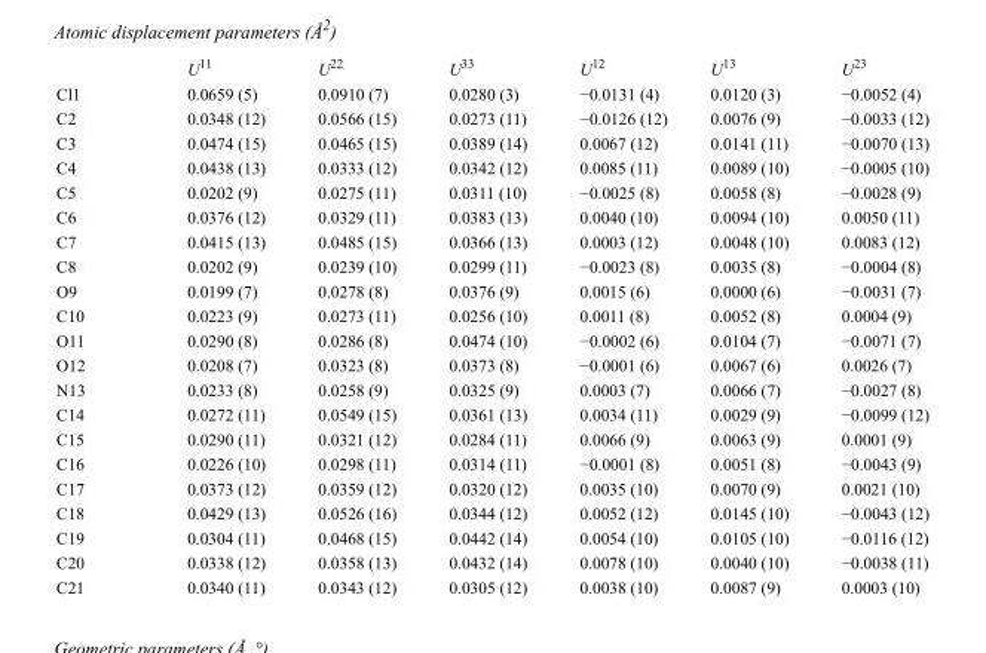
<table><thead><tr><td></td><td>U<sup>11</sup></td><td>U<sup>22</sup></td><td>U<sup>33</sup></td><td>U<sup>12</sup></td><td>U<sup>13</sup></td><td>U<sup>23</sup></td></tr></thead><tbody><tr><td>Cl1</td><td>0.0659 (5)</td><td>0.0910 (7)</td><td>0.0280 (3)</td><td>−0.0131 (4)</td><td>0.0120 (3)</td><td>−0.0052 (4)</td></tr><tr><td>C2</td><td>0.0348 (12)</td><td>0.0566 (15)</td><td>0.0273 (11)</td><td>−0.0126 (12)</td><td>0.0076 (9)</td><td>−0.0033 (12)</td></tr><tr><td>C3</td><td>0.0474 (15)</td><td>0.0465 (15)</td><td>0.0389 (14)</td><td>0.0067 (12)</td><td>0.0141 (11)</td><td>−0.0070 (13)</td></tr><tr><td>C4</td><td>0.0438 (13)</td><td>0.0333 (12)</td><td>0.0342 (12)</td><td>0.0085 (11)</td><td>0.0089 (10)</td><td>−0.0005 (10)</td></tr><tr><td>C5</td><td>0.0202 (9)</td><td>0.0275 (11)</td><td>0.0311 (10)</td><td>−0.0025 (8)</td><td>0.0058 (8)</td><td>−0.0028 (9)</td></tr><tr><td>C6</td><td>0.0376 (12)</td><td>0.0329 (11)</td><td>0.0383 (13)</td><td>0.0040 (10)</td><td>0.0094 (10)</td><td>0.0050 (11)</td></tr><tr><td>C7</td><td>0.0415 (13)</td><td>0.0485 (15)</td><td>0.0366 (13)</td><td>0.0003 (12)</td><td>0.0048 (10)</td><td>0.0083 (12)</td></tr><tr><td>C8</td><td>0.0202 (9)</td><td>0.0239 (10)</td><td>0.0299 (11)</td><td>−0.0023 (8)</td><td>0.0035 (8)</td><td>−0.0004 (8)</td></tr><tr><td>O9</td><td>0.0199 (7)</td><td>0.0278 (8)</td><td>0.0376 (9)</td><td>0.0015 (6)</td><td>0.0000 (6)</td><td>−0.0031 (7)</td></tr><tr><td>C10</td><td>0.0223 (9)</td><td>0.0273 (11)</td><td>0.0256 (10)</td><td>0.0011 (8)</td><td>0.0052 (8)</td><td>0.0004 (9)</td></tr><tr><td>O11</td><td>0.0290 (8)</td><td>0.0286 (8)</td><td>0.0474 (10)</td><td>−0.0002 (6)</td><td>0.0104 (7)</td><td>−0.0071 (7)</td></tr><tr><td>O12</td><td>0.0208 (7)</td><td>0.0323 (8)</td><td>0.0373 (8)</td><td>−0.0001 (6)</td><td>0.0067 (6)</td><td>0.0026 (7)</td></tr><tr><td>N13</td><td>0.0233 (8)</td><td>0.0258 (9)</td><td>0.0325 (9)</td><td>0.0003 (7)</td><td>0.0066 (7)</td><td>−0.0027 (8)</td></tr><tr><td>C14</td><td>0.0272 (11)</td><td>0.0549 (15)</td><td>0.0361 (13)</td><td>0.0034 (11)</td><td>0.0029 (9)</td><td>−0.0099 (12)</td></tr><tr><td>C15</td><td>0.0290 (11)</td><td>0.0321 (12)</td><td>0.0284 (11)</td><td>0.0066 (9)</td><td>0.0063 (9)</td><td>0.0001 (9)</td></tr><tr><td>C16</td><td>0.0226 (10)</td><td>0.0298 (11)</td><td>0.0314 (11)</td><td>−0.0001 (8)</td><td>0.0051 (8)</td><td>−0.0043 (9)</td></tr><tr><td>C17</td><td>0.0373 (12)</td><td>0.0359 (12)</td><td>0.0320 (12)</td><td>0.0035 (10)</td><td>0.0070 (9)</td><td>0.0021 (10)</td></tr><tr><td>C18</td><td>0.0429 (13)</td><td>0.0526 (16)</td><td>0.0344 (12)</td><td>0.0052 (12)</td><td>0.0145 (10)</td><td>−0.0043 (12)</td></tr><tr><td>C19</td><td>0.0304 (11)</td><td>0.0468 (15)</td><td>0.0442 (14)</td><td>0.0054 (10)</td><td>0.0105 (10)</td><td>−0.0116 (12)</td></tr><tr><td>C20</td><td>0.0338 (12)</td><td>0.0358 (13)</td><td>0.0432 (14)</td><td>0.0078 (10)</td><td>0.0040 (10)</td><td>−0.0038 (11)</td></tr><tr><td>C21</td><td>0.0340 (11)</td><td>0.0343 (12)</td><td>0.0305 (12)</td><td>0.0038 (10)</td><td>0.0087 (9)</td><td>0.0003 (10)</td></tr></tbody></table>